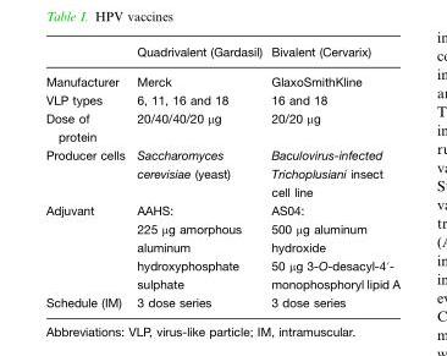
<table><thead><tr><td></td><td>Quadrivalent (Gardasil)</td><td>Bivalent (Cervarix)</td></tr></thead><tbody><tr><td>Manufacturer</td><td>Merck</td><td>GlaxoSmithKline</td></tr><tr><td>VLP types</td><td>6, 11, 16 and 18</td><td>16 and 18</td></tr><tr><td>Dose of protein</td><td>20/40/40/20 µg</td><td>20/20 µg</td></tr><tr><td>Producer cells</td><td>Saccharomyces cerevisiae (yeast)</td><td>Baculovirus-infected Trichoplusiani insect cell line</td></tr><tr><td rowspan="2">Adjuvant</td><td>AAHS:</td><td>AS04:</td></tr><tr><td>225 µg amorphous aluminum hydroxyphosphate sulphate</td><td>500 µg aluminum hydroxide 50 µg 3-O-desacyl-4′- monophosphoryl lipid A</td></tr><tr><td>Schedule (IM)</td><td>3 dose series</td><td>3 dose series</td></tr></tbody></table>